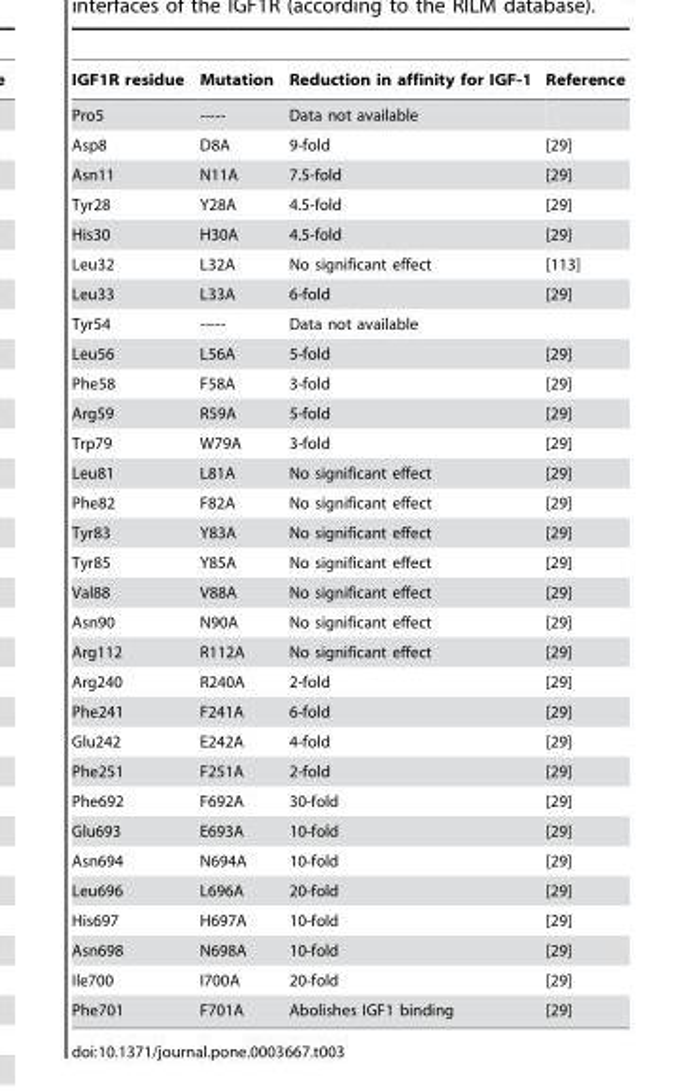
<table><thead><tr><td>IGF1R residue</td><td>Mutation</td><td>Reduction in affinity for IGF-1</td><td>Reference</td></tr></thead><tbody><tr><td>Pro5</td><td>-----</td><td>Data not available</td><td></td></tr><tr><td>Asp8</td><td>D8A</td><td>9-fold</td><td>[29]</td></tr><tr><td>Asn11</td><td>N11A</td><td>7.5-fold</td><td>[29]</td></tr><tr><td>Tyr28</td><td>Y28A</td><td>4.5-fold</td><td>[29]</td></tr><tr><td>His30</td><td>H30A</td><td>4.5-fold</td><td>[29]</td></tr><tr><td>Leu32</td><td>L32A</td><td>No significant effect</td><td>[113]</td></tr><tr><td>Leu33</td><td>L33A</td><td>6-fold</td><td>[29]</td></tr><tr><td>Tyr54</td><td>-----</td><td>Data not available</td><td></td></tr><tr><td>Leu56</td><td>L56A</td><td>5-fold</td><td>[29]</td></tr><tr><td>Phe58</td><td>F58A</td><td>3-fold</td><td>[29]</td></tr><tr><td>Arg59</td><td>R59A</td><td>5-fold</td><td>[29]</td></tr><tr><td>Trp79</td><td>W79A</td><td>3-fold</td><td>[29]</td></tr><tr><td>Leu81</td><td>L81A</td><td>No significant effect</td><td>[29]</td></tr><tr><td>Phe82</td><td>F82A</td><td>No significant effect</td><td>[29]</td></tr><tr><td>Tyr83</td><td>Y83A</td><td>No significant effect</td><td>[29]</td></tr><tr><td>Tyr85</td><td>Y85A</td><td>No significant effect</td><td>[29]</td></tr><tr><td>Val88</td><td>V88A</td><td>No significant effect</td><td>[29]</td></tr><tr><td>Asn90</td><td>N90A</td><td>No significant effect</td><td>[29]</td></tr><tr><td>Arg112</td><td>R112A</td><td>No significant effect</td><td>[29]</td></tr><tr><td>Arg240</td><td>R240A</td><td>2-fold</td><td>[29]</td></tr><tr><td>Phe241</td><td>F241A</td><td>6-fold</td><td>[29]</td></tr><tr><td>Glu242</td><td>E242A</td><td>4-fold</td><td>[29]</td></tr><tr><td>Phe251</td><td>F251A</td><td>2-fold</td><td>[29]</td></tr><tr><td>Phe692</td><td>F692A</td><td>30-fold</td><td>[29]</td></tr><tr><td>Glu693</td><td>E693A</td><td>10-fold</td><td>[29]</td></tr><tr><td>Asn694</td><td>N694A</td><td>10-fold</td><td>[29]</td></tr><tr><td>Leu696</td><td>L696A</td><td>20-fold</td><td>[29]</td></tr><tr><td>His697</td><td>H697A</td><td>10-fold</td><td>[29]</td></tr><tr><td>Asn698</td><td>N698A</td><td>10-fold</td><td>[29]</td></tr><tr><td>Ile700</td><td>I700A</td><td>20-fold</td><td>[29]</td></tr><tr><td>Phe701</td><td>F701A</td><td>Abolishes IGF1 binding</td><td>[29]</td></tr></tbody></table>